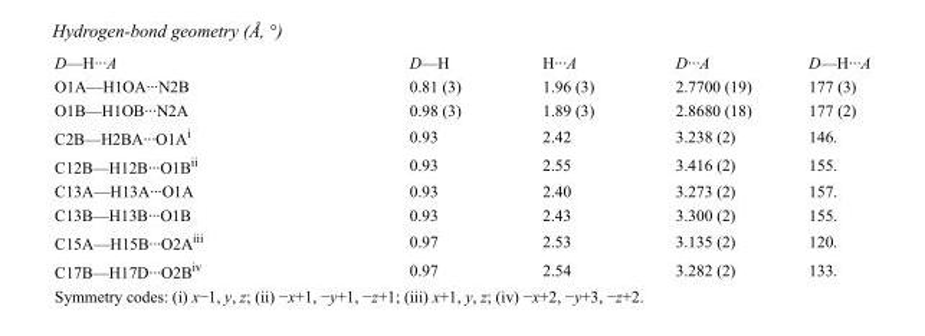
<table><tbody><tr><td>D—H···A</td><td>D—H</td><td>H···A</td><td>D···A</td><td>D—H···A</td></tr><tr><td>O1A—H1OA···N2B</td><td>0.81 (3)</td><td>1.96 (3)</td><td>2.7700 (19)</td><td>177 (3)</td></tr><tr><td>O1B—H1OB···N2A</td><td>0.98 (3)</td><td>1.89 (3)</td><td>2.8680 (18)</td><td>177 (2)</td></tr><tr><td>C2B—H2BA···O1A<sup>i</sup></td><td>0.93</td><td>2.42</td><td>3.238 (2)</td><td>146.</td></tr><tr><td>C12B—H12B···O1B<sup>ii</sup></td><td>0.93</td><td>2.55</td><td>3.416 (2)</td><td>155.</td></tr><tr><td>C13A—H13A···O1A</td><td>0.93</td><td>2.40</td><td>3.273 (2)</td><td>157.</td></tr><tr><td>C13B—H13B···O1B</td><td>0.93</td><td>2.43</td><td>3.300 (2)</td><td>155.</td></tr><tr><td>C15A—H15B···O2A<sup>iii</sup></td><td>0.97</td><td>2.53</td><td>3.135 (2)</td><td>120.</td></tr><tr><td>C17B—H17D···O2B<sup>iv</sup></td><td>0.97</td><td>2.54</td><td>3.282 (2)</td><td>133.</td></tr></tbody></table>